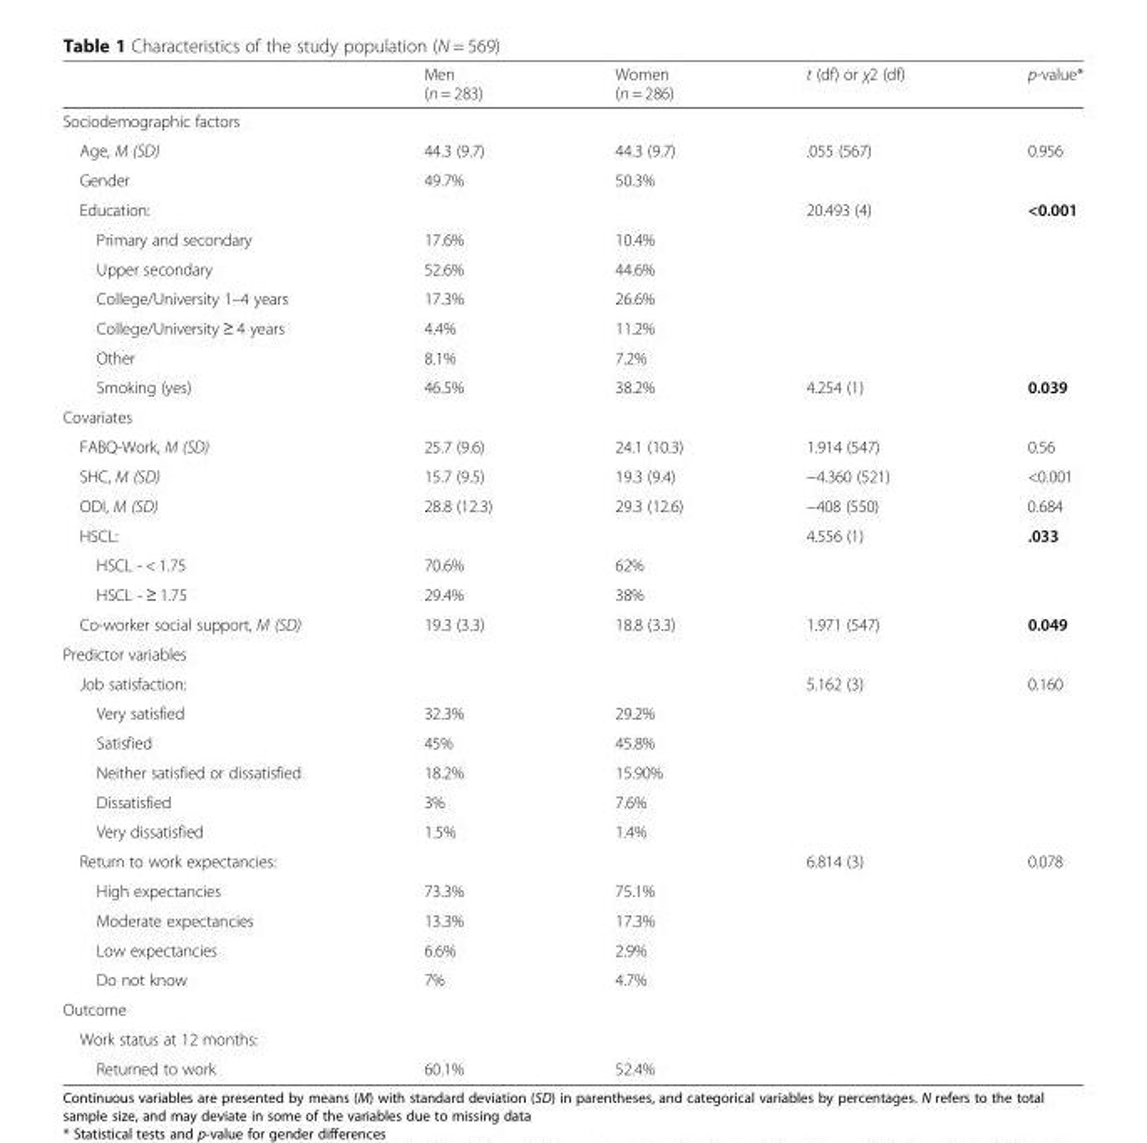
<table><thead><tr><td></td><td>Men (n = 283)</td><td>Women (n = 286)</td><td>t (df) or χ2 (df)</td><td>p-value*</td></tr></thead><tbody><tr><td colspan="5">Sociodemographic factors</td></tr><tr><td>Age, M (SD)</td><td>44.3 (9.7)</td><td>44.3 (9.7)</td><td>.055 (567)</td><td>0.956</td></tr><tr><td>Gender</td><td>49.7%</td><td>50.3%</td><td></td><td></td></tr><tr><td>Education:</td><td></td><td></td><td>20.493 (4)</td><td>&lt;0.001</td></tr><tr><td>Primary and secondary</td><td>17.6%</td><td>10.4%</td><td></td><td></td></tr><tr><td>Upper secondary</td><td>52.6%</td><td>44.6%</td><td></td><td></td></tr><tr><td>College/University 1–4 years</td><td>17.3%</td><td>26.6%</td><td></td><td></td></tr><tr><td>College/University ≥ 4 years</td><td>4.4%</td><td>11.2%</td><td></td><td></td></tr><tr><td>Other</td><td>8.1%</td><td>7.2%</td><td></td><td></td></tr><tr><td>Smoking (yes)</td><td>46.5%</td><td>38.2%</td><td>4.254 (1)</td><td>0.039</td></tr><tr><td colspan="5">Covariates</td></tr><tr><td>FABQ-Work, M (SD)</td><td>25.7 (9.6)</td><td>24.1 (10.3)</td><td>1.914 (547)</td><td>0.56</td></tr><tr><td>SHC, M (SD)</td><td>15.7 (9.5)</td><td>19.3 (9.4)</td><td>−4.360 (521)</td><td>&lt;0.001</td></tr><tr><td>ODI, M (SD)</td><td>28.8 (12.3)</td><td>29.3 (12.6)</td><td>−408 (550)</td><td>0.684</td></tr><tr><td>HSCL:</td><td></td><td></td><td>4.556 (1)</td><td>.033</td></tr><tr><td>HSCL - &lt; 1.75</td><td>70.6%</td><td>62%</td><td></td><td></td></tr><tr><td>HSCL - ≥ 1.75</td><td>29.4%</td><td>38%</td><td></td><td></td></tr><tr><td>Co-worker social support, M (SD)</td><td>19.3 (3.3)</td><td>18.8 (3.3)</td><td>1.971 (547)</td><td>0.049</td></tr><tr><td colspan="5">Predictor variables</td></tr><tr><td>Job satisfaction:</td><td></td><td></td><td>5.162 (3)</td><td>0.160</td></tr><tr><td>Very satisfied</td><td>32.3%</td><td>29.2%</td><td></td><td></td></tr><tr><td>Satisfied</td><td>45%</td><td>45.8%</td><td></td><td></td></tr><tr><td>Neither satisfied or dissatisfied</td><td>18.2%</td><td>15.90%</td><td></td><td></td></tr><tr><td>Dissatisfied</td><td>3%</td><td>7.6%</td><td></td><td></td></tr><tr><td>Very dissatisfied</td><td>1.5%</td><td>1.4%</td><td></td><td></td></tr><tr><td>Return to work expectancies:</td><td></td><td></td><td>6.814 (3)</td><td>0.078</td></tr><tr><td>High expectancies</td><td>73.3%</td><td>75.1%</td><td></td><td></td></tr><tr><td>Moderate expectancies</td><td>13.3%</td><td>17.3%</td><td></td><td></td></tr><tr><td>Low expectancies</td><td>6.6%</td><td>2.9%</td><td></td><td></td></tr><tr><td>Do not know</td><td>7%</td><td>4.7%</td><td></td><td></td></tr><tr><td colspan="5">Outcome</td></tr><tr><td colspan="5">Work status at 12 months:</td></tr><tr><td>Returned to work</td><td>60.1%</td><td>52.4%</td><td></td><td></td></tr></tbody></table>